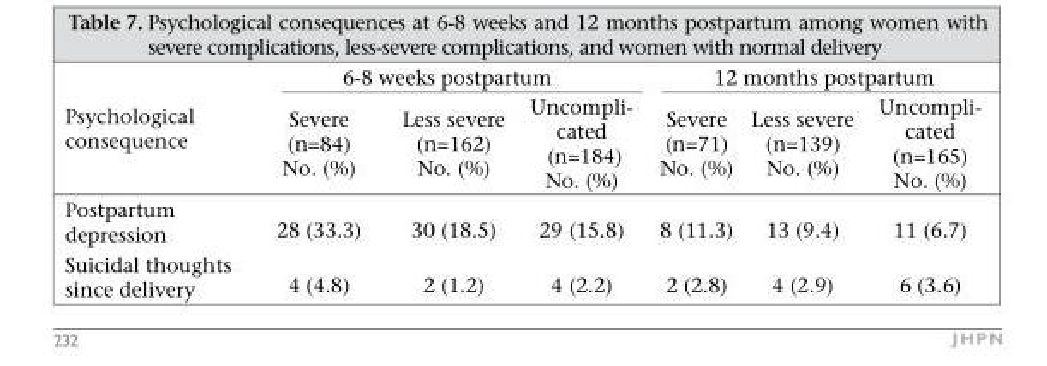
<table><thead><tr><td rowspan="2">Psychological consequence</td><td colspan="3">6-8 weeks postpartum</td><td colspan="3">12 months postpartum</td></tr><tr><td>Severe (n=84) No. (%)</td><td>Less severe (n=162) No. (%)</td><td>Uncompli- cated (n=184) No. (%)</td><td>Severe (n=71) No. (%)</td><td>Less severe (n=139) No. (%)</td><td>Uncompli- cated (n=165) No. (%)</td></tr></thead><tbody><tr><td>Postpartum depression</td><td>28 (33.3)</td><td>30 (18.5)</td><td>29 (15.8)</td><td>8 (11.3)</td><td>13 (9.4)</td><td>11 (6.7)</td></tr><tr><td>Suicidal thoughts since delivery</td><td>4 (4.8)</td><td>2 (1.2)</td><td>4 (2.2)</td><td>2 (2.8)</td><td>4 (2.9)</td><td>6 (3.6)</td></tr></tbody></table>